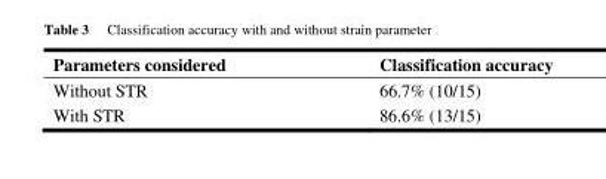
<table><thead><tr><td>Parameters considered</td><td>Classification accuracy</td></tr></thead><tbody><tr><td>Without STR</td><td>66.7% (10/15)</td></tr><tr><td>With STR</td><td>86.6% (13/15)</td></tr></tbody></table>